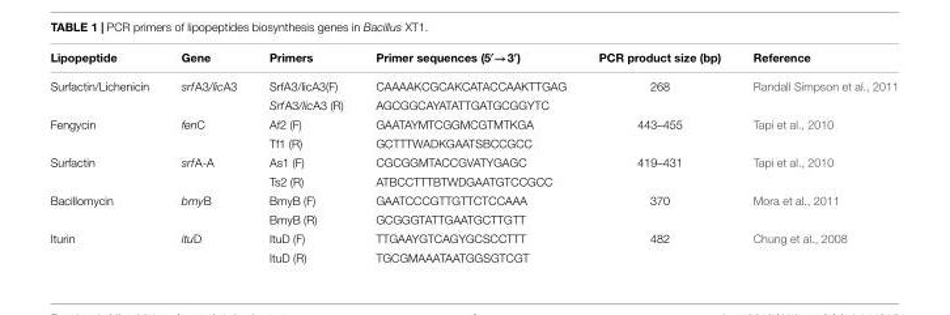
<table><thead><tr><td>Lipopeptide</td><td>Gene</td><td>Primers</td><td>Primer sequences (5′→3′)</td><td>PCR product size (bp)</td><td>Reference</td></tr></thead><tbody><tr><td rowspan="2">Surfactin/Lichenicin</td><td>srfA3/licA3</td><td>SrfA3/licA3(F)</td><td>CAAAAKCGCAKCATACCAAKTTGAG</td><td>268</td><td>Randall Simpson et al., 2011</td></tr><tr><td></td><td>SrfA3/licA3 (R)</td><td>AGCGGCAYATATTGATGCGGYTC</td><td></td><td></td></tr><tr><td rowspan="2">Fengycin</td><td>fenC</td><td>Af2 (F)</td><td>GAATAYMTCGGMCGTMTKGA</td><td>443–455</td><td>Tapi et al., 2010</td></tr><tr><td></td><td>Tf1 (R)</td><td>GCTTTWADKGAATSBCCGCC</td><td></td><td></td></tr><tr><td rowspan="2">Surfactin</td><td>srfA-A</td><td>As1 (F)</td><td>CGCGGMTACCGVATYGAGC</td><td>419–431</td><td>Tapi et al., 2010</td></tr><tr><td></td><td>Ts2 (R)</td><td>ATBCCTTTBTWDGAATGTCCGCC</td><td></td><td></td></tr><tr><td rowspan="2">Bacillomycin</td><td>bmyB</td><td>BmyB (F)</td><td>GAATCCCGTTGTTCTCCAAA</td><td>370</td><td>Mora et al., 2011</td></tr><tr><td></td><td>BmyB (R)</td><td>GCGGGTATTGAATGCTTGTT</td><td></td><td></td></tr><tr><td rowspan="2">Iturin</td><td>ituD</td><td>ItuD (F)</td><td>TTGAAYGTCAGYGCSCCTTT</td><td>482</td><td>Chung et al., 2008</td></tr><tr><td></td><td>ItuD (R)</td><td>TGCGMAAATAATGGSGTCGT</td><td></td><td></td></tr></tbody></table>